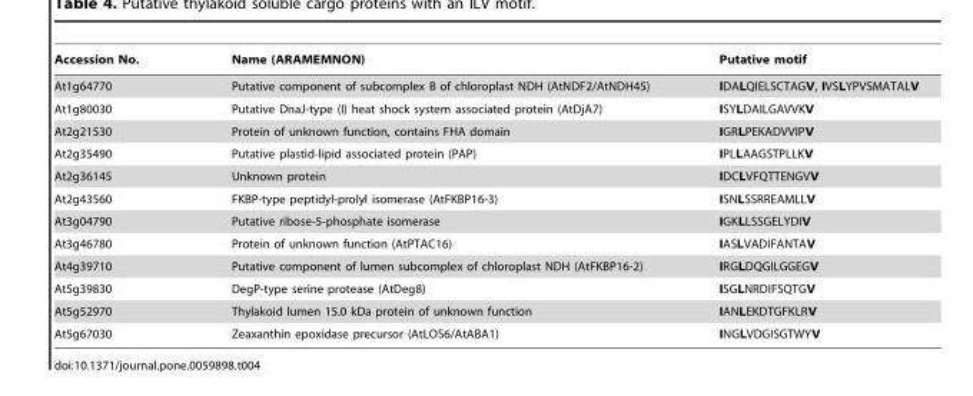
<table><thead><tr><td>Accession No.</td><td>Name (ARAMEMNON)</td><td>Putative motif</td></tr></thead><tbody><tr><td>At1g64770</td><td>Putative component of subcomplex B of chloroplast NDH (AtNDF2/AtNDH45)</td><td>IDALQIELSCTAGV, IVSLYPVSMATALV</td></tr><tr><td>At1g80030</td><td>Putative DnaJ-type (I) heat shock system associated protein (AtDjA7)</td><td>ISYLDAILGAVVKV</td></tr><tr><td>At2g21530</td><td>Protein of unknown function, contains FHA domain</td><td>IGRLPEKADVVIPV</td></tr><tr><td>At2g35490</td><td>Putative plastid-lipid associated protein (PAP)</td><td>IPLLAAGSTPLLKV</td></tr><tr><td>At2g36145</td><td>Unknown protein</td><td>IDCLVFQTTENGVV</td></tr><tr><td>At2g43560</td><td>FKBP-type peptidyl-prolyl isomerase (AtFKBP16-3)</td><td>ISNLSSRREAMLLV</td></tr><tr><td>At3g04790</td><td>Putative ribose-5-phosphate isomerase</td><td>IGKLLSSGELYDIV</td></tr><tr><td>At3g46780</td><td>Protein of unknown function (AtPTAC16)</td><td>IASLVADIFANTAV</td></tr><tr><td>At4g39710</td><td>Putative component of lumen subcomplex of chloroplast NDH (AtFKBP16-2)</td><td>IRGLDQGILGGEGV</td></tr><tr><td>At5g39830</td><td>DegP-type serine protease (AtDeg8)</td><td>ISGLNRDIFSQTGV</td></tr><tr><td>At5g52970</td><td>Thylakoid lumen 15.0 kDa protein of unknown function</td><td>IANLEKDTGFKLRV</td></tr><tr><td>At5g67030</td><td>Zeaxanthin epoxidase precursor (AtLOS6/AtABA1)</td><td>INGLVDGISGTWYV</td></tr></tbody></table>